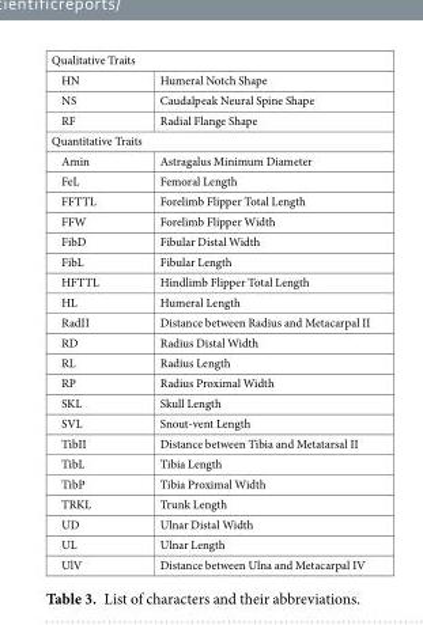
<table><tbody><tr><td colspan="2">Qualitative Traits</td></tr><tr><td>HN</td><td>Humeral Notch Shape</td></tr><tr><td>NS</td><td>Caudalpeak Neural Spine Shape</td></tr><tr><td>RF</td><td>Radial Flange Shape</td></tr><tr><td colspan="2">Quantitative Traits</td></tr><tr><td>Amin</td><td>Astragalus Minimum Diameter</td></tr><tr><td>FeL</td><td>Femoral Length</td></tr><tr><td>FFTTL</td><td>Forelimb Flipper Total Length</td></tr><tr><td>FFW</td><td>Forelimb Flipper Width</td></tr><tr><td>FibD</td><td>Fibular Distal Width</td></tr><tr><td>FibL</td><td>Fibular Length</td></tr><tr><td>HFTTL</td><td>Hindlimb Flipper Total Length</td></tr><tr><td>HL</td><td>Humeral Length</td></tr><tr><td>RadII</td><td>Distance between Radius and Metacarpal II</td></tr><tr><td>RD</td><td>Radius Distal Width</td></tr><tr><td>RL</td><td>Radius Length</td></tr><tr><td>RP</td><td>Radius Proximal Width</td></tr><tr><td>SKL</td><td>Skull Length</td></tr><tr><td>SVL</td><td>Snout-vent Length</td></tr><tr><td>TibII</td><td>Distance between Tibia and Metatarsal II</td></tr><tr><td>TibL</td><td>Tibia Length</td></tr><tr><td>TibP</td><td>Tibia Proximal Width</td></tr><tr><td>TRKL</td><td>Trunk Length</td></tr><tr><td>UD</td><td>Ulnar Distal Width</td></tr><tr><td>UL</td><td>Ulnar Length</td></tr><tr><td>UlV</td><td>Distance between Ulna and Metacarpal IV</td></tr></tbody></table>